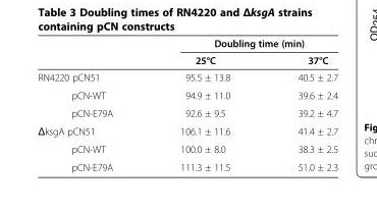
<table><thead><tr><td rowspan="2"></td><td colspan="2">Doubling time (min)</td></tr><tr><td>25°C</td><td>37°C</td></tr></thead><tbody><tr><td>RN4220 pCN51</td><td>95.5 ± 13.8</td><td>40.5 ± 2.7</td></tr><tr><td>pCN-WT</td><td>94.9 ± 11.0</td><td>39.6 ± 2.4</td></tr><tr><td>pCN-E79A</td><td>92.6 ± 9.5</td><td>39.2 ± 4.7</td></tr><tr><td>ΔksgA pCN51</td><td>106.1 ± 11.6</td><td>41.4 ± 2.7</td></tr><tr><td>pCN-WT</td><td>100.0 ± 8.0</td><td>38.3 ± 2.5</td></tr><tr><td>pCN-E79A</td><td>111.3 ± 11.5</td><td>51.0 ± 2.3</td></tr></tbody></table>